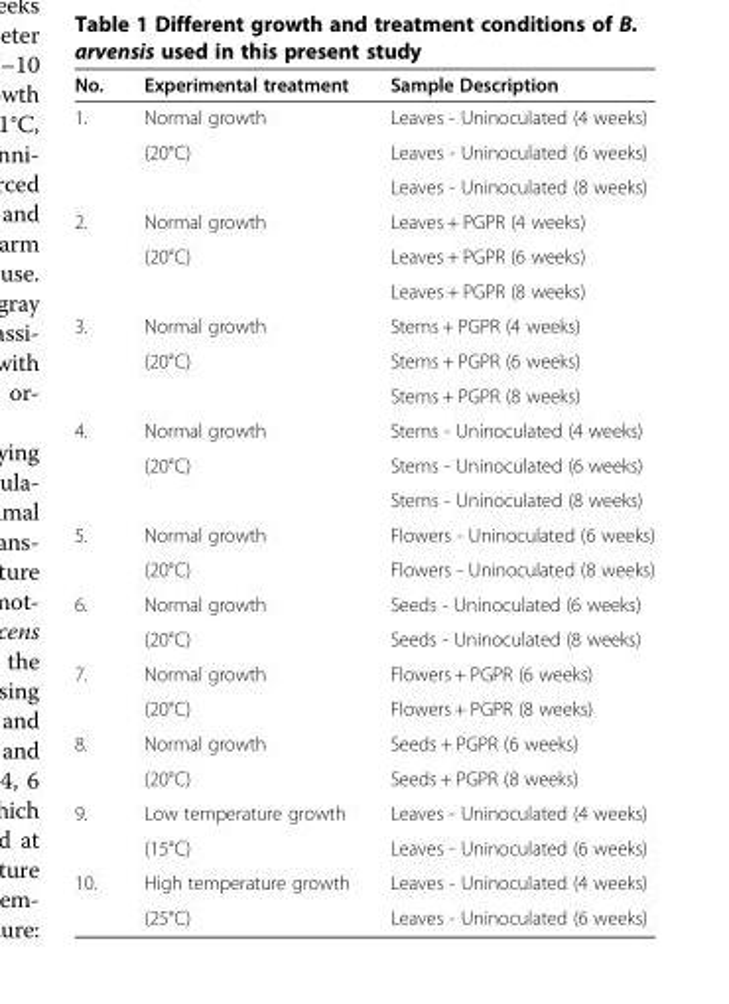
<table><thead><tr><td>No.</td><td>Experimental treatment</td><td>Sample Description</td></tr></thead><tbody><tr><td rowspan="3">1.</td><td>Normal growth</td><td>Leaves - Uninoculated (4 weeks)</td></tr><tr><td rowspan="2">(20°C)</td><td>Leaves - Uninoculated (6 weeks)</td></tr><tr><td>Leaves - Uninoculated (8 weeks)</td></tr><tr><td rowspan="3">2.</td><td>Normal growth</td><td>Leaves + PGPR (4 weeks)</td></tr><tr><td rowspan="2">(20°C)</td><td>Leaves + PGPR (6 weeks)</td></tr><tr><td>Leaves + PGPR (8 weeks)</td></tr><tr><td rowspan="3">3.</td><td>Normal growth</td><td>Stems + PGPR (4 weeks)</td></tr><tr><td rowspan="2">(20°C)</td><td>Stems + PGPR (6 weeks)</td></tr><tr><td>Stems + PGPR (8 weeks)</td></tr><tr><td rowspan="3">4.</td><td>Normal growth</td><td>Stems - Uninoculated (4 weeks)</td></tr><tr><td rowspan="2">(20°C)</td><td>Stems - Uninoculated (6 weeks)</td></tr><tr><td>Stems - Uninoculated (8 weeks)</td></tr><tr><td rowspan="2">5.</td><td>Normal growth</td><td>Flowers - Uninoculated (6 weeks)</td></tr><tr><td>(20°C)</td><td>Flowers - Uninoculated (8 weeks)</td></tr><tr><td rowspan="2">6.</td><td>Normal growth</td><td>Seeds - Uninoculated (6 weeks)</td></tr><tr><td>(20°C)</td><td>Seeds - Uninoculated (8 weeks)</td></tr><tr><td rowspan="2">7.</td><td>Normal growth</td><td>Flowers + PGPR (6 weeks)</td></tr><tr><td>(20°C)</td><td>Flowers + PGPR (8 weeks)</td></tr><tr><td rowspan="2">8.</td><td>Normal growth</td><td>Seeds + PGPR (6 weeks)</td></tr><tr><td>(20°C)</td><td>Seeds + PGPR (8 weeks)</td></tr><tr><td rowspan="2">9.</td><td>Low temperature growth</td><td>Leaves - Uninoculated (4 weeks)</td></tr><tr><td>(15°C)</td><td>Leaves - Uninoculated (6 weeks)</td></tr><tr><td rowspan="2">10.</td><td>High temperature growth</td><td>Leaves - Uninoculated (4 weeks)</td></tr><tr><td>(25°C)</td><td>Leaves - Uninoculated (6 weeks)</td></tr></tbody></table>